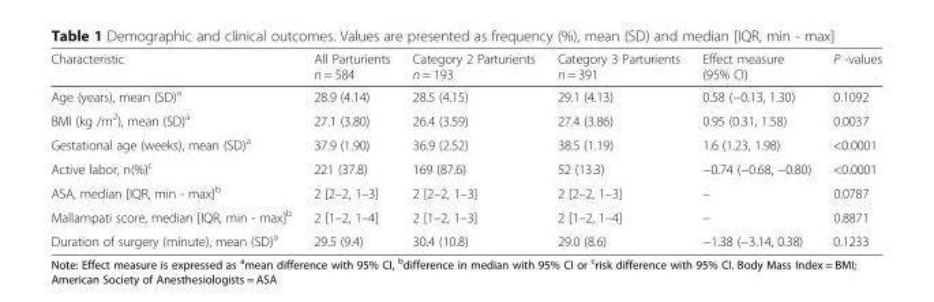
<table><thead><tr><td>Characteristic</td><td>All Parturients n = 584</td><td>Category 2 Parturients n = 193</td><td>Category 3 Parturients n = 391</td><td>Effect measure (95% CI)</td><td>P -values</td></tr></thead><tbody><tr><td>Age (years), mean (SD)<sup>a</sup></td><td>28.9 (4.14)</td><td>28.5 (4.15)</td><td>29.1 (4.13)</td><td>0.58 (−0.13, 1.30)</td><td>0.1092</td></tr><tr><td>BMI (kg /m<sup>2</sup>), mean (SD)<sup>a</sup></td><td>27.1 (3.80)</td><td>26.4 (3.59)</td><td>27.4 (3.86)</td><td>0.95 (0.31, 1.58)</td><td>0.0037</td></tr><tr><td>Gestational age (weeks), mean (SD)<sup>a</sup></td><td>37.9 (1.90)</td><td>36.9 (2.52)</td><td>38.5 (1.19)</td><td>1.6 (1.23, 1.98)</td><td>&lt;0.0001</td></tr><tr><td>Active labor, n(%)<sup>c</sup></td><td>221 (37.8)</td><td>169 (87.6)</td><td>52 (13.3)</td><td>−0.74 (−0.68, −0.80)</td><td>&lt;0.0001</td></tr><tr><td>ASA, median [IQR, min - max]<sup>b</sup></td><td>2 [2–2, 1–3]</td><td>2 [2–2, 1–3]</td><td>2 [2–2, 1–3]</td><td>–</td><td>0.0787</td></tr><tr><td>Mallampati score, median [IQR, min - max]<sup>b</sup></td><td>2 [1–2, 1–4]</td><td>2 [1–2, 1–3]</td><td>2 [1–2, 1–4]</td><td>–</td><td>0.8871</td></tr><tr><td>Duration of surgery (minute), mean (SD)<sup>a</sup></td><td>29.5 (9.4)</td><td>30.4 (10.8)</td><td>29.0 (8.6)</td><td>−1.38 (−3.14, 0.38)</td><td>0.1233</td></tr></tbody></table>